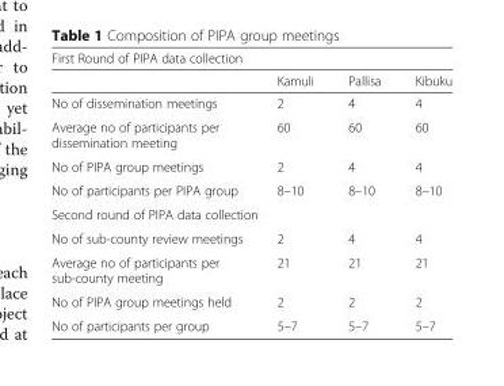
<table><thead><tr><td colspan="4">First Round of PIPA data collection</td></tr><tr><td></td><td>Kamuli</td><td>Pallisa</td><td>Kibuku</td></tr></thead><tbody><tr><td>No of dissemination meetings</td><td>2</td><td>4</td><td>4</td></tr><tr><td>Average no of participants per dissemination meeting</td><td>60</td><td>60</td><td>60</td></tr><tr><td>No of PIPA group meetings</td><td>2</td><td>4</td><td>4</td></tr><tr><td>No of participants per PIPA group</td><td>8–10</td><td>8–10</td><td>8–10</td></tr><tr><td colspan="4">Second round of PIPA data collection</td></tr><tr><td>No of sub-county review meetings</td><td>2</td><td>4</td><td>4</td></tr><tr><td>Average no of participants per sub-county meeting</td><td>21</td><td>21</td><td>21</td></tr><tr><td>No of PIPA group meetings held</td><td>2</td><td>2</td><td>2</td></tr><tr><td>No of participants per group</td><td>5–7</td><td>5–7</td><td>5–7</td></tr></tbody></table>